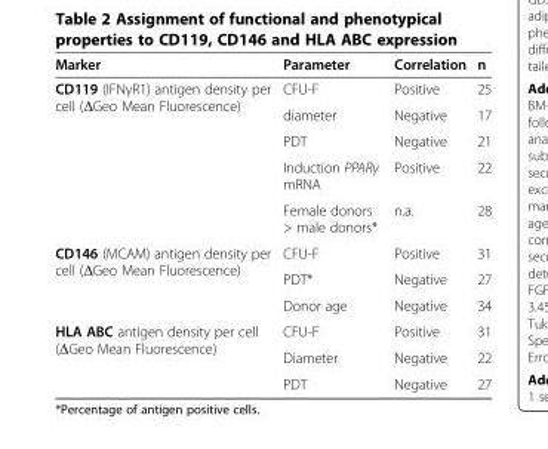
<table><thead><tr><td>Marker</td><td>Parameter</td><td>Correlation</td><td>n</td></tr></thead><tbody><tr><td rowspan="5">CD119 (IFNγR1) antigen density per cell (ΔGeo Mean Fluorescence)</td><td>CFU-F</td><td>Positive</td><td>25</td></tr><tr><td>diameter</td><td>Negative</td><td>17</td></tr><tr><td>PDT</td><td>Negative</td><td>21</td></tr><tr><td>Induction PPARγ mRNA</td><td>Positive</td><td>22</td></tr><tr><td>Female donors &gt; male donors*</td><td>n.a.</td><td>28</td></tr><tr><td rowspan="3">CD146 (MCAM) antigen density per cell (ΔGeo Mean Fluorescence)</td><td>CFU-F</td><td>Positive</td><td>31</td></tr><tr><td>PDT*</td><td>Negative</td><td>27</td></tr><tr><td>Donor age</td><td>Negative</td><td>34</td></tr><tr><td rowspan="3">HLA ABC antigen density per cell (ΔGeo Mean Fluorescence)</td><td>CFU-F</td><td>Positive</td><td>31</td></tr><tr><td>Diameter</td><td>Negative</td><td>22</td></tr><tr><td>PDT</td><td>Negative</td><td>27</td></tr></tbody></table>